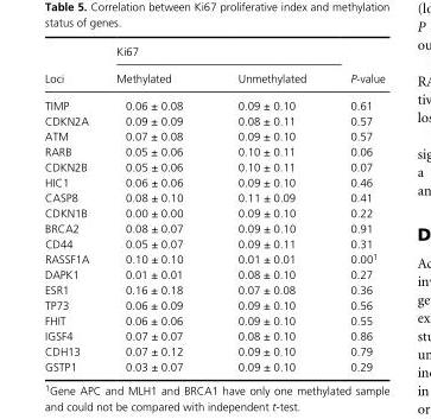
<table><thead><tr><td rowspan="2">Loci</td><td colspan="2">Ki67</td><td rowspan="2">P- value</td></tr><tr><td>Methylated</td><td>Unmethylated</td></tr></thead><tbody><tr><td>TIMP</td><td>0.06 ± 0.08</td><td>0.09 ± 0.10</td><td>0.61</td></tr><tr><td>CDKN2A</td><td>0.09 ± 0.09</td><td>0.08 ± 0.11</td><td>0.57</td></tr><tr><td>ATM</td><td>0.07 ± 0.08</td><td>0.09 ± 0.10</td><td>0.57</td></tr><tr><td>RARB</td><td>0.05 ± 0.06</td><td>0.10 ± 0.11</td><td>0.06</td></tr><tr><td>CDKN2B</td><td>0.05 ± 0.06</td><td>0.10 ± 0.11</td><td>0.07</td></tr><tr><td>HIC1</td><td>0.06 ± 0.06</td><td>0.09 ± 0.10</td><td>0.46</td></tr><tr><td>CASP8</td><td>0.08 ± 0.10</td><td>0.11 ± 0.09</td><td>0.41</td></tr><tr><td>CDKN1B</td><td>0.00 ± 0.00</td><td>0.09 ± 0.10</td><td>0.22</td></tr><tr><td>BRCA2</td><td>0.08 ± 0.07</td><td>0.09 ± 0.10</td><td>0.91</td></tr><tr><td>CD44</td><td>0.05 ± 0.07</td><td>0.09 ± 0.11</td><td>0.31</td></tr><tr><td>RASSF1A</td><td>0.10 ± 0.10</td><td>0.01 ± 0.01</td><td>0.001</td></tr><tr><td>DAPK1</td><td>0.01 ± 0.01</td><td>0.08 ± 0.10</td><td>0.27</td></tr><tr><td>ESR1</td><td>0.16 ± 0.18</td><td>0.07 ± 0.08</td><td>0.36</td></tr><tr><td>TP73</td><td>0.06 ± 0.09</td><td>0.09 ± 0.10</td><td>0.56</td></tr><tr><td>FHIT</td><td>0.06 ± 0.06</td><td>0.09 ± 0.10</td><td>0.55</td></tr><tr><td>IGSF4</td><td>0.07 ± 0.07</td><td>0.08 ± 0.10</td><td>0.86</td></tr><tr><td>CDH13</td><td>0.07 ± 0.12</td><td>0.09 ± 0.10</td><td>0.79</td></tr><tr><td>GSTP1</td><td>0.03 ± 0.07</td><td>0.09 ± 0.10</td><td>0.29</td></tr></tbody></table>